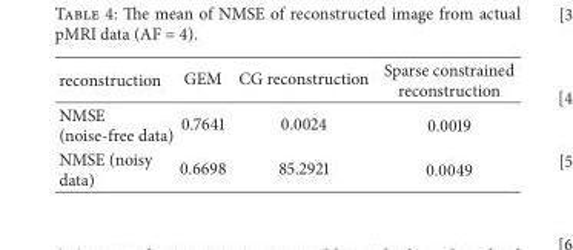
<table><thead><tr><td>reconstruction</td><td>GEM</td><td>CG reconstruction</td><td>Sparse constrained reconstruction</td></tr></thead><tbody><tr><td>NMSE (noise-free data)</td><td>0.7641</td><td>0.0024</td><td>0.0019</td></tr><tr><td>NMSE (noisy data)</td><td>0.6698</td><td>85.2921</td><td>0.0049</td></tr></tbody></table>